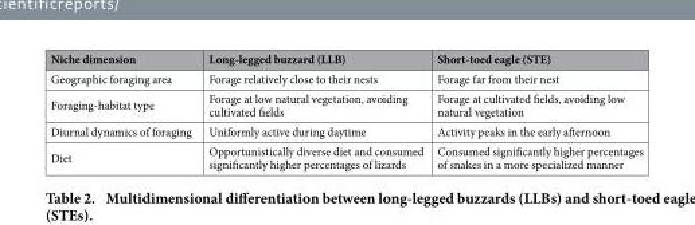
<table><thead><tr><td>Niche dimension</td><td>Long-legged buzzard (LLB)</td><td>Short-toed eagle (STE)</td></tr></thead><tbody><tr><td>Geographic foraging area</td><td>Forage relatively close to their nests</td><td>Forage far from their nest</td></tr><tr><td>Foraging-habitat type</td><td>Forage at low natural vegetation, avoiding cultivated fields</td><td>Forage at cultivated fields, avoiding low natural vegetation</td></tr><tr><td>Diurnal dynamics of foraging</td><td>Uniformly active during daytime</td><td>Activity peaks in the early afternoon</td></tr><tr><td>Diet</td><td>Opportunistically diverse diet and consumed significantly higher percentages of lizards</td><td>Consumed significantly higher percentages of snakes in a more specialized manner</td></tr></tbody></table>